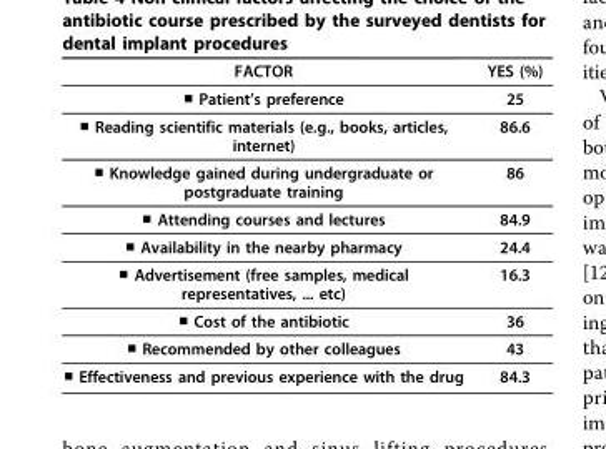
<table><thead><tr><td>FACTOR</td><td>YES (%)</td></tr></thead><tbody><tr><td>■ Patient’s preference</td><td>25</td></tr><tr><td>■ Reading scientific materials (e.g., books, articles, internet)</td><td>86.6</td></tr><tr><td>■ Knowledge gained during undergraduate or postgraduate training</td><td>86</td></tr><tr><td>■ Attending courses and lectures</td><td>84.9</td></tr><tr><td>■ Availability in the nearby pharmacy</td><td>24.4</td></tr><tr><td>■ Advertisement (free samples, medical representatives, ... etc)</td><td>16.3</td></tr><tr><td>■ Cost of the antibiotic</td><td>36</td></tr><tr><td>■ Recommended by other colleagues</td><td>43</td></tr><tr><td>■ Effectiveness and previous experience with the drug</td><td>84.3</td></tr></tbody></table>